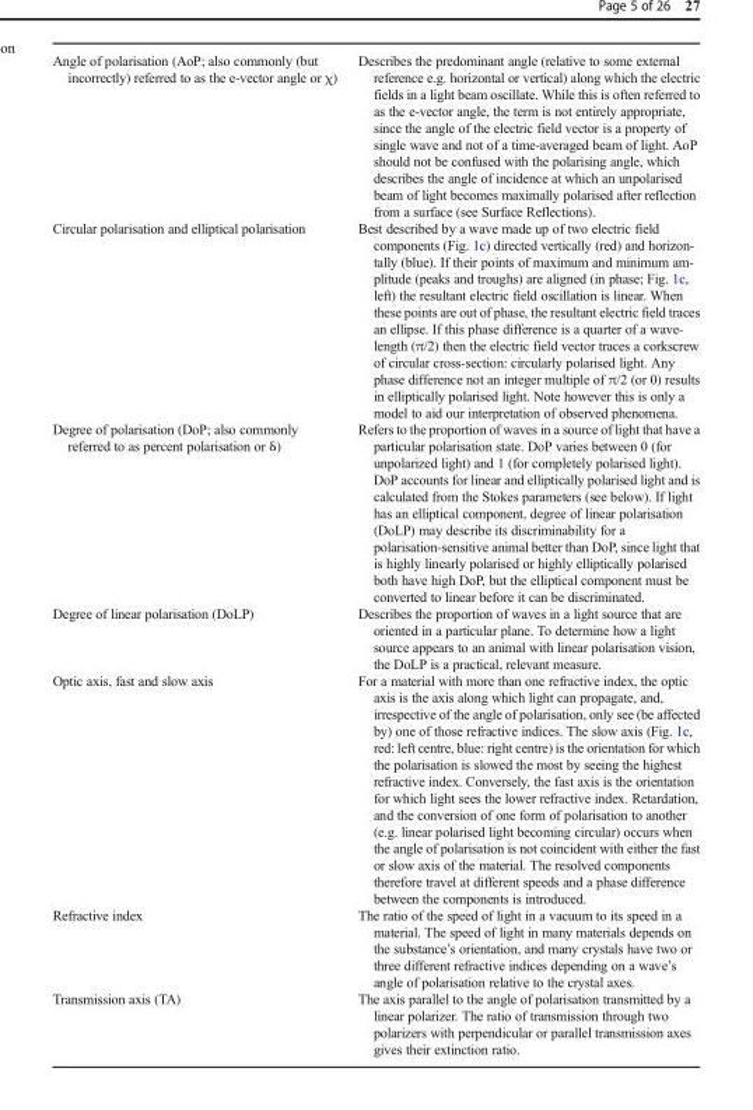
<table><tbody><tr><td>Angle of polarisation (AoP; also commonly (but incorrectly) referred to as the e-vector angle or χ)</td><td>Describes the predominant angle (relative to some external reference e.g. horizontal or vertical) along which the electric fields in a light beam oscillate. While this is often referred to as the e-vector angle, the term is not entirely appropriate, since the angle of the electric field vector is a property of single wave and not of a time-averaged beam of light. AoP should not be confused with the polarising angle, which describes the angle of incidence at which an unpolarised beam of light becomes maximally polarised after reflection from a surface (see Surface Reflections).</td></tr><tr><td>Circular polarisation and elliptical polarisation</td><td>Best described by a wave made up of two electric field components (Fig. 1c) directed vertically (red) and horizon- tally (blue). If their points of maximum and minimum am- plitude (peaks and troughs) are aligned (in phase; Fig. 1c, left) the resultant electric field oscillation is linear. When these points are out of phase, the resultant electric field traces an ellipse. If this phase difference is a quarter of a wave- length (π/2) then the electric field vector traces a corkscrew of circular cross-section: circularly polarised light. Any phase difference not an integer multiple of π/2 (or 0) results in elliptically polarised light. Note however this is only a model to aid our interpretation of observed phenomena.</td></tr><tr><td>Degree of polarisation (DoP; also commonly referred to as percent polarisation or ẟ)</td><td>Refers to the proportion of waves in a source of light that have a particular polarisation state. DoP varies between 0 (for unpolarized light) and 1 (for completely polarised light). DoP accounts for linear and elliptically polarised light and is calculated from the Stokes parameters (see below). If light has an elliptical component, degree of linear polarisation (DoLP) may describe its discriminability for a polarisation-sensitive animal better than DoP, since light that is highly linearly polarised or highly elliptically polarised both have high DoP, but the elliptical component must be converted to linear before it can be discriminated.</td></tr><tr><td>Degree of linear polarisation (DoLP)</td><td>Describes the proportion of waves in a light source that are oriented in a particular plane. To determine how a light source appears to an animal with linear polarisation vision, the DoLP is a practical, relevant measure.</td></tr><tr><td>Optic axis, fast and slow axis</td><td>For a material with more than one refractive index, the optic axis is the axis along which light can propagate, and, irrespective of the angle of polarisation, only see (be affected by) one of those refractive indices. The slow axis (Fig. 1c, red: left centre, blue: right centre) is the orientation for which the polarisation is slowed the most by seeing the highest refractive index. Conversely, the fast axis is the orientation for which light sees the lower refractive index. Retardation, and the conversion of one form of polarisation to another (e.g. linear polarised light becoming circular) occurs when the angle of polarisation is not coincident with either the fast or slow axis of the material. The resolved components therefore travel at different speeds and a phase difference between the components is introduced.</td></tr><tr><td>Refractive index</td><td>The ratio of the speed of light in a vacuum to its speed in a material. The speed of light in many materials depends on the substance’s orientation, and many crystals have two or three different refractive indices depending on a wave’s angle of polarisation relative to the crystal axes.</td></tr><tr><td>Transmission axis (TA)</td><td>The axis parallel to the angle of polarisation transmitted by a linear polarizer. The ratio of transmission through two polarizers with perpendicular or parallel transmission axes gives their extinction ratio.</td></tr></tbody></table>